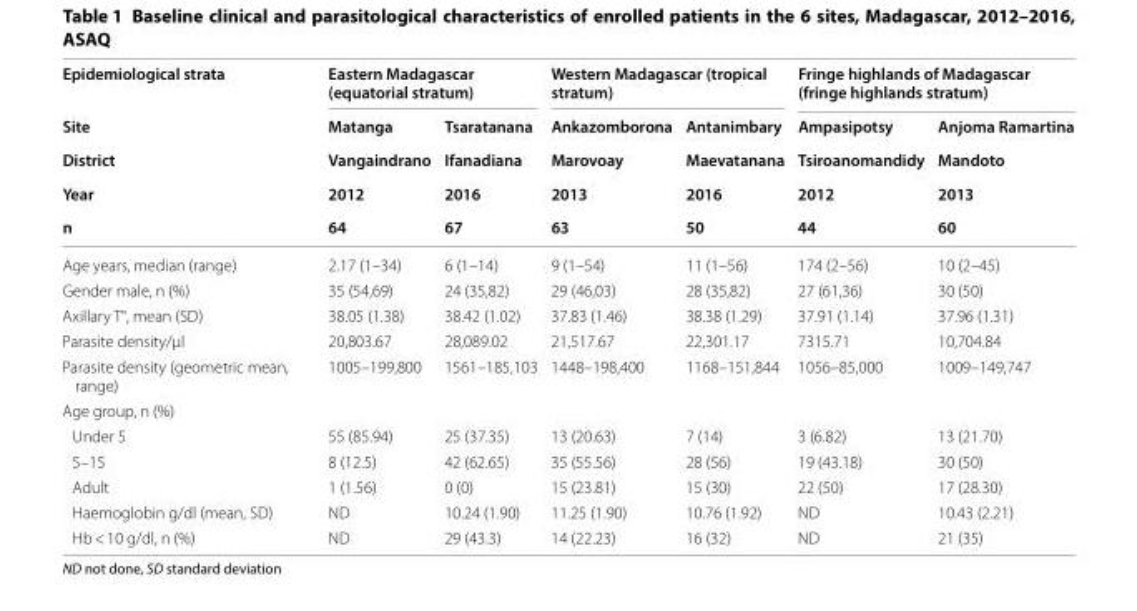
<table><thead><tr><td rowspan="5">Epidemiological strata Site District Year n</td><td colspan="2">Eastern Madagascar (equatorial stratum)</td><td colspan="2">Western Madagascar (tropical stratum)</td><td colspan="2">Fringe highlands of Madagascar (fringe highlands stratum)</td></tr><tr><td rowspan="4">Matanga Vangaindrano 2012 64</td><td rowspan="4">Tsaratanana Ifanadiana 2016 67</td><td rowspan="4">Ankazomborona Marovoay 2013 63</td><td rowspan="4">Antanimbary Maevatanana 2016 50</td><td rowspan="4">Ampasipotsy Tsiroanomandidy 2012 44</td><td rowspan="4">Anjoma Ramartina Mandoto 2013 60</td></tr><tr></tr><tr></tr><tr></tr></thead><tbody><tr><td>Age years, median (range)</td><td>2.17 (1–34)</td><td>6 (1–14)</td><td>9 (1–54)</td><td>11 (1–56)</td><td>174 (2–56)</td><td>10 (2–45)</td></tr><tr><td>Gender male, n (%)</td><td>35 (54,69)</td><td>24 (35,82)</td><td>29 (46,03)</td><td>28 (35,82)</td><td>27 (61,36)</td><td>30 (50)</td></tr><tr><td>Axillary T°, mean (SD)</td><td>38.05 (1.38)</td><td>38.42 (1.02)</td><td>37.83 (1.46)</td><td>38.38 (1.29)</td><td>37.91 (1.14)</td><td>37.96 (1.31)</td></tr><tr><td>Parasite density/µl</td><td>20,803.67</td><td>28,089.02</td><td>21,517.67</td><td>22,301.17</td><td>7315.71</td><td>10,704.84</td></tr><tr><td>Parasite density (geometric mean, range)</td><td>1005–199,800</td><td>1561–185,103</td><td>1448–198,400</td><td>1168–151,844</td><td>1056–85,000</td><td>1009–149,747</td></tr><tr><td colspan="7">Age group, n (%)</td></tr><tr><td>Under 5</td><td>55 (85.94)</td><td>25 (37.35)</td><td>13 (20.63)</td><td>7 (14)</td><td>3 (6.82)</td><td>13 (21.70)</td></tr><tr><td>5–15</td><td>8 (12.5)</td><td>42 (62.65)</td><td>35 (55.56)</td><td>28 (56)</td><td>19 (43.18)</td><td>30 (50)</td></tr><tr><td>Adult</td><td>1 (1.56)</td><td>0 (0)</td><td>15 (23.81)</td><td>15 (30)</td><td>22 (50)</td><td>17 (28.30)</td></tr><tr><td>Haemoglobin g/dl (mean, SD)</td><td>ND</td><td>10.24 (1.90)</td><td>11.25 (1.90)</td><td>10.76 (1.92)</td><td>ND</td><td>10.43 (2.21)</td></tr><tr><td>Hb &lt; 10 g/dl, n (%)</td><td>ND</td><td>29 (43.3)</td><td>14 (22.23)</td><td>16 (32)</td><td>ND</td><td>21 (35)</td></tr></tbody></table>